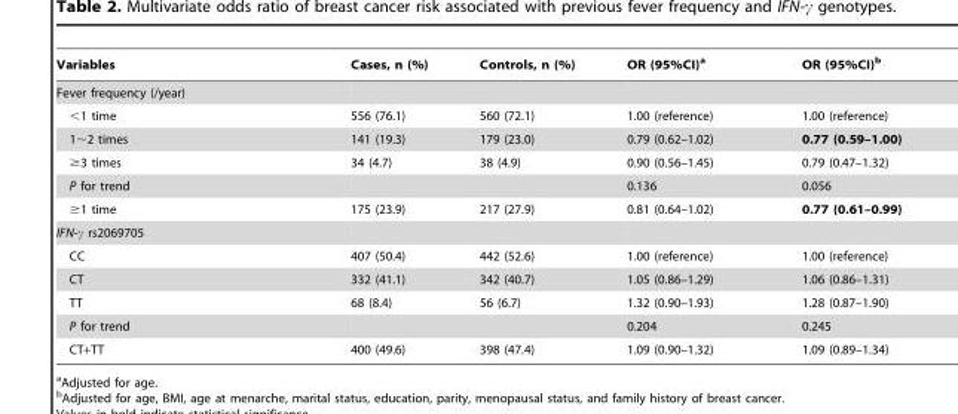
<table><thead><tr><td>Variables</td><td>Cases, n (%)</td><td>Controls, n (%)</td><td>OR (95%CI)<sup>a</sup></td><td>OR (95%CI)<sup>b</sup></td></tr></thead><tbody><tr><td colspan="5">Fever frequency (/year)</td></tr><tr><td>&lt;1 time</td><td>556 (76.1)</td><td>560 (72.1)</td><td>1.00 (reference)</td><td>1.00 (reference)</td></tr><tr><td>1∼2 times</td><td>141 (19.3)</td><td>179 (23.0)</td><td>0.79 (0.62–1.02)</td><td>0.77 (0.59–1.00)</td></tr><tr><td>≥3 times</td><td>34 (4.7)</td><td>38 (4.9)</td><td>0.90 (0.56–1.45)</td><td>0.79 (0.47–1.32)</td></tr><tr><td>P for trend</td><td></td><td></td><td>0.136</td><td>0.056</td></tr><tr><td>≥1 time</td><td>175 (23.9)</td><td>217 (27.9)</td><td>0.81 (0.64–1.02)</td><td>0.77 (0.61–0.99)</td></tr><tr><td colspan="5">IFN-γ rs2069705</td></tr><tr><td>CC</td><td>407 (50.4)</td><td>442 (52.6)</td><td>1.00 (reference)</td><td>1.00 (reference)</td></tr><tr><td>CT</td><td>332 (41.1)</td><td>342 (40.7)</td><td>1.05 (0.86–1.29)</td><td>1.06 (0.86–1.31)</td></tr><tr><td>TT</td><td>68 (8.4)</td><td>56 (6.7)</td><td>1.32 (0.90–1.93)</td><td>1.28 (0.87–1.90)</td></tr><tr><td>P for trend</td><td></td><td></td><td>0.204</td><td>0.245</td></tr><tr><td>CT+TT</td><td>400 (49.6)</td><td>398 (47.4)</td><td>1.09 (0.90–1.32)</td><td>1.09 (0.89–1.34)</td></tr></tbody></table>